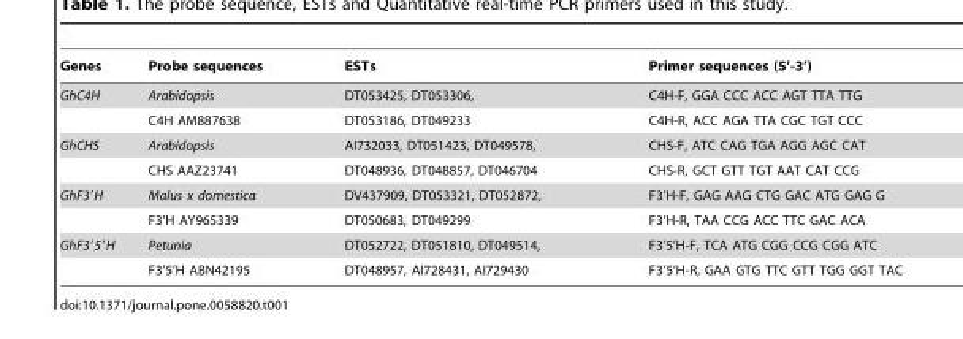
<table><thead><tr><td>Genes</td><td>Probe sequences</td><td>ESTs</td><td>Primer sequences (5’-3’)</td></tr></thead><tbody><tr><td rowspan="2">GhC4H</td><td>Arabidopsis</td><td>DT053425, DT053306,</td><td>C4H-F, GGA CCC ACC AGT TTA TTG</td></tr><tr><td>C4H AM887638</td><td>DT053186, DT049233</td><td>C4H-R, ACC AGA TTA CGC TGT CCC</td></tr><tr><td rowspan="2">GhCHS</td><td>Arabidopsis</td><td>AI732033, DT051423, DT049578,</td><td>CHS-F, ATC CAG TGA AGG AGC CAT</td></tr><tr><td>CHS AAZ23741</td><td>DT048936, DT048857, DT046704</td><td>CHS-R, GCT GTT TGT AAT CAT CCG</td></tr><tr><td rowspan="2">GhF3′H</td><td>Malus x domestica</td><td>DV437909, DT053321, DT052872,</td><td>F3’H-F, GAG AAG CTG GAC ATG GAG G</td></tr><tr><td>F3’H AY965339</td><td>DT050683, DT049299</td><td>F3’H-R, TAA CCG ACC TTC GAC ACA</td></tr><tr><td rowspan="2">GhF3′5′H</td><td>Petunia</td><td>DT052722, DT051810, DT049514,</td><td>F3’5’H-F, TCA ATG CGG CCG CGG ATC</td></tr><tr><td>F3’5’H ABN42195</td><td>DT048957, AI728431, AI729430</td><td>F3’5’H-R, GAA GTG TTC GTT TGG GGT TAC</td></tr></tbody></table>